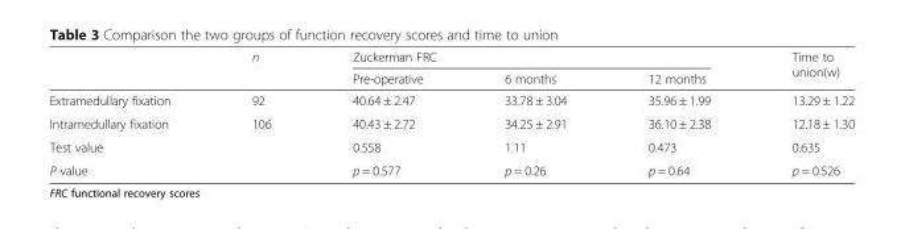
<table><thead><tr><td rowspan="2"></td><td rowspan="2">n</td><td colspan="3">Zuckerman FRC</td><td rowspan="2">Time to union(w)</td></tr><tr><td>Pre-operative</td><td>6 months</td><td>12 months</td></tr></thead><tbody><tr><td>Extramedullary fixation</td><td>92</td><td>40.64 ± 2.47</td><td>33.78 ± 3.04</td><td>35.96 ± 1.99</td><td>13.29 ± 1.22</td></tr><tr><td>Intramedullary fixation</td><td>106</td><td>40.43 ± 2.72</td><td>34.25 ± 2.91</td><td>36.10 ± 2.38</td><td>12.18 ± 1.30</td></tr><tr><td>Test value</td><td></td><td>0.558</td><td>1.11</td><td>0.473</td><td>0.635</td></tr><tr><td>P value</td><td></td><td>p = 0.577</td><td>p = 0.26</td><td>p = 0.64</td><td>p = 0.526</td></tr></tbody></table>